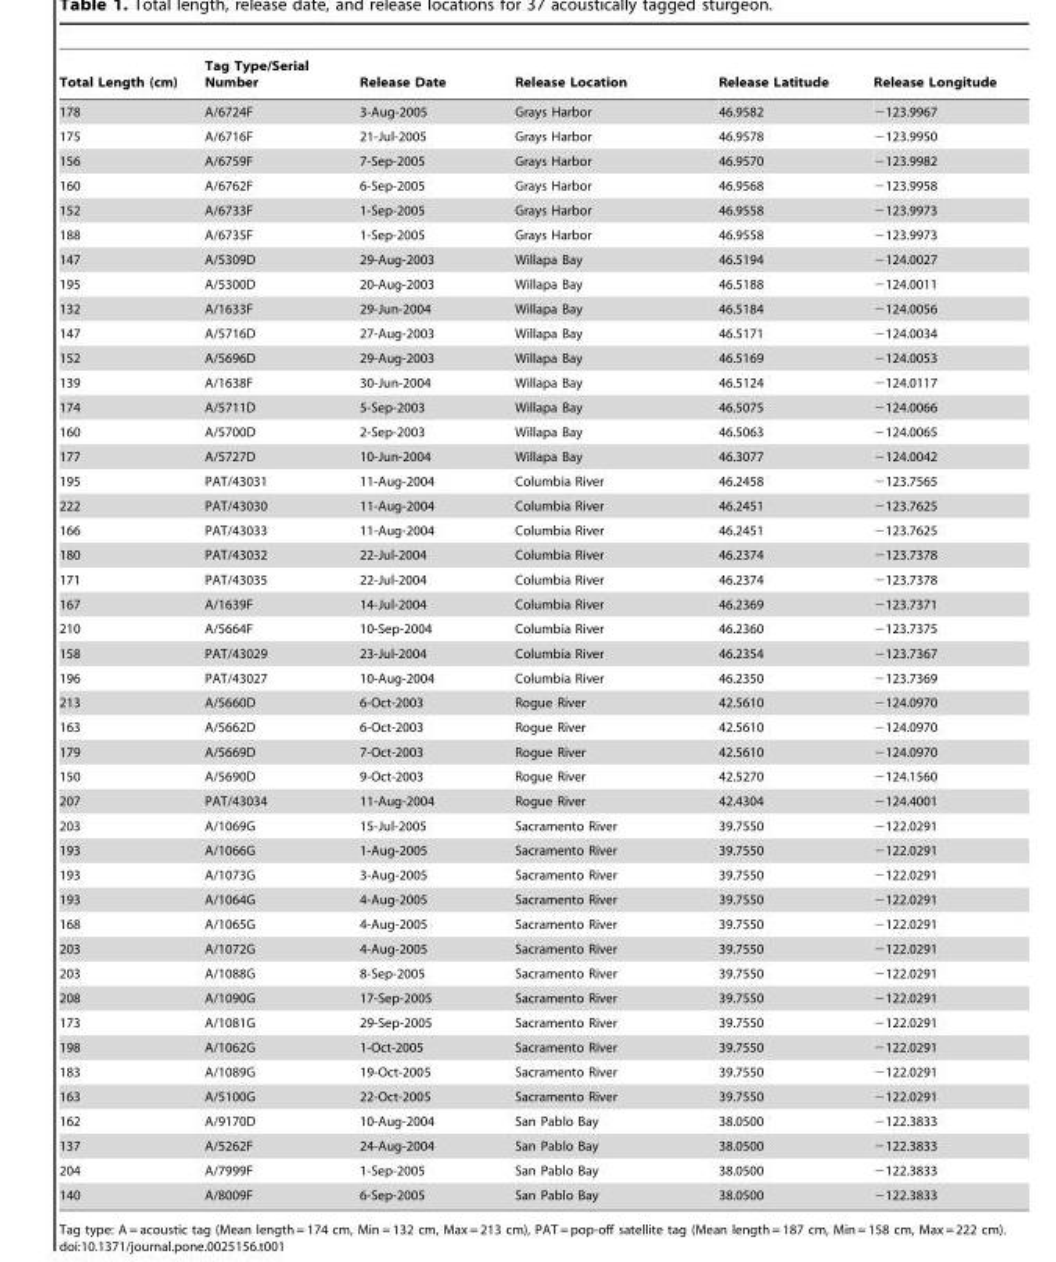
<table><thead><tr><td>Total Length (cm)</td><td>Tag Type/Serial Number</td><td>Release Date</td><td>Release Location</td><td>Release Latitude</td><td>Release Longitude</td></tr></thead><tbody><tr><td>178</td><td>A/6724F</td><td>3-Aug-2005</td><td>Grays Harbor</td><td>46.9582</td><td>−123.9967</td></tr><tr><td>175</td><td>A/6716F</td><td>21-Jul-2005</td><td>Grays Harbor</td><td>46.9578</td><td>−123.9950</td></tr><tr><td>156</td><td>A/6759F</td><td>7-Sep-2005</td><td>Grays Harbor</td><td>46.9570</td><td>−123.9982</td></tr><tr><td>160</td><td>A/6762F</td><td>6-Sep-2005</td><td>Grays Harbor</td><td>46.9568</td><td>−123.9958</td></tr><tr><td>152</td><td>A/6733F</td><td>1-Sep-2005</td><td>Grays Harbor</td><td>46.9558</td><td>−123.9973</td></tr><tr><td>188</td><td>A/6735F</td><td>1-Sep-2005</td><td>Grays Harbor</td><td>46.9558</td><td>−123.9973</td></tr><tr><td>147</td><td>A/5309D</td><td>29-Aug-2003</td><td>Willapa Bay</td><td>46.5194</td><td>−124.0027</td></tr><tr><td>195</td><td>A/5300D</td><td>20-Aug-2003</td><td>Willapa Bay</td><td>46.5188</td><td>−124.0011</td></tr><tr><td>132</td><td>A/1633F</td><td>29-Jun-2004</td><td>Willapa Bay</td><td>46.5184</td><td>−124.0056</td></tr><tr><td>147</td><td>A/5716D</td><td>27-Aug-2003</td><td>Willapa Bay</td><td>46.5171</td><td>−124.0034</td></tr><tr><td>152</td><td>A/5696D</td><td>29-Aug-2003</td><td>Willapa Bay</td><td>46.5169</td><td>−124.0053</td></tr><tr><td>139</td><td>A/1638F</td><td>30-Jun-2004</td><td>Willapa Bay</td><td>46.5124</td><td>−124.0117</td></tr><tr><td>174</td><td>A/5711D</td><td>5-Sep-2003</td><td>Willapa Bay</td><td>46.5075</td><td>−124.0066</td></tr><tr><td>160</td><td>A/5700D</td><td>2-Sep-2003</td><td>Willapa Bay</td><td>46.5063</td><td>−124.0065</td></tr><tr><td>177</td><td>A/5727D</td><td>10-Jun-2004</td><td>Willapa Bay</td><td>46.3077</td><td>−124.0042</td></tr><tr><td>195</td><td>PAT/43031</td><td>11-Aug-2004</td><td>Columbia River</td><td>46.2458</td><td>−123.7565</td></tr><tr><td>222</td><td>PAT/43030</td><td>11-Aug-2004</td><td>Columbia River</td><td>46.2451</td><td>−123.7625</td></tr><tr><td>166</td><td>PAT/43033</td><td>11-Aug-2004</td><td>Columbia River</td><td>46.2451</td><td>−123.7625</td></tr><tr><td>180</td><td>PAT/43032</td><td>22-Jul-2004</td><td>Columbia River</td><td>46.2374</td><td>−123.7378</td></tr><tr><td>171</td><td>PAT/43035</td><td>22-Jul-2004</td><td>Columbia River</td><td>46.2374</td><td>−123.7378</td></tr><tr><td>167</td><td>A/1639F</td><td>14-Jul-2004</td><td>Columbia River</td><td>46.2369</td><td>−123.7371</td></tr><tr><td>210</td><td>A/5664F</td><td>10-Sep-2004</td><td>Columbia River</td><td>46.2360</td><td>−123.7375</td></tr><tr><td>158</td><td>PAT/43029</td><td>23-Jul-2004</td><td>Columbia River</td><td>46.2354</td><td>−123.7367</td></tr><tr><td>196</td><td>PAT/43027</td><td>10-Aug-2004</td><td>Columbia River</td><td>46.2350</td><td>−123.7369</td></tr><tr><td>213</td><td>A/5660D</td><td>6-Oct-2003</td><td>Rogue River</td><td>42.5610</td><td>−124.0970</td></tr><tr><td>163</td><td>A/5662D</td><td>6-Oct-2003</td><td>Rogue River</td><td>42.5610</td><td>−124.0970</td></tr><tr><td>179</td><td>A/5669D</td><td>7-Oct-2003</td><td>Rogue River</td><td>42.5610</td><td>−124.0970</td></tr><tr><td>150</td><td>A/5690D</td><td>9-Oct-2003</td><td>Rogue River</td><td>42.5270</td><td>−124.1560</td></tr><tr><td>207</td><td>PAT/43034</td><td>11-Aug-2004</td><td>Rogue River</td><td>42.4304</td><td>−124.4001</td></tr><tr><td>203</td><td>A/1069G</td><td>15-Jul-2005</td><td>Sacramento River</td><td>39.7550</td><td>−122.0291</td></tr><tr><td>193</td><td>A/1066G</td><td>1-Aug-2005</td><td>Sacramento River</td><td>39.7550</td><td>−122.0291</td></tr><tr><td>193</td><td>A/1073G</td><td>3-Aug-2005</td><td>Sacramento River</td><td>39.7550</td><td>−122.0291</td></tr><tr><td>193</td><td>A/1064G</td><td>4-Aug-2005</td><td>Sacramento River</td><td>39.7550</td><td>−122.0291</td></tr><tr><td>168</td><td>A/1065G</td><td>4-Aug-2005</td><td>Sacramento River</td><td>39.7550</td><td>−122.0291</td></tr><tr><td>203</td><td>A/1072G</td><td>4-Aug-2005</td><td>Sacramento River</td><td>39.7550</td><td>−122.0291</td></tr><tr><td>203</td><td>A/1088G</td><td>8-Sep-2005</td><td>Sacramento River</td><td>39.7550</td><td>−122.0291</td></tr><tr><td>208</td><td>A/1090G</td><td>17-Sep-2005</td><td>Sacramento River</td><td>39.7550</td><td>−122.0291</td></tr><tr><td>173</td><td>A/1081G</td><td>29-Sep-2005</td><td>Sacramento River</td><td>39.7550</td><td>−122.0291</td></tr><tr><td>198</td><td>A/1062G</td><td>1-Oct-2005</td><td>Sacramento River</td><td>39.7550</td><td>−122.0291</td></tr><tr><td>183</td><td>A/1089G</td><td>19-Oct-2005</td><td>Sacramento River</td><td>39.7550</td><td>−122.0291</td></tr><tr><td>163</td><td>A/5100G</td><td>22-Oct-2005</td><td>Sacramento River</td><td>39.7550</td><td>−122.0291</td></tr><tr><td>162</td><td>A/9170D</td><td>10-Aug-2004</td><td>San Pablo Bay</td><td>38.0500</td><td>−122.3833</td></tr><tr><td>137</td><td>A/5262F</td><td>24-Aug-2004</td><td>San Pablo Bay</td><td>38.0500</td><td>−122.3833</td></tr><tr><td>204</td><td>A/7999F</td><td>1-Sep-2005</td><td>San Pablo Bay</td><td>38.0500</td><td>−122.3833</td></tr><tr><td>140</td><td>A/8009F</td><td>6-Sep-2005</td><td>San Pablo Bay</td><td>38.0500</td><td>−122.3833</td></tr></tbody></table>